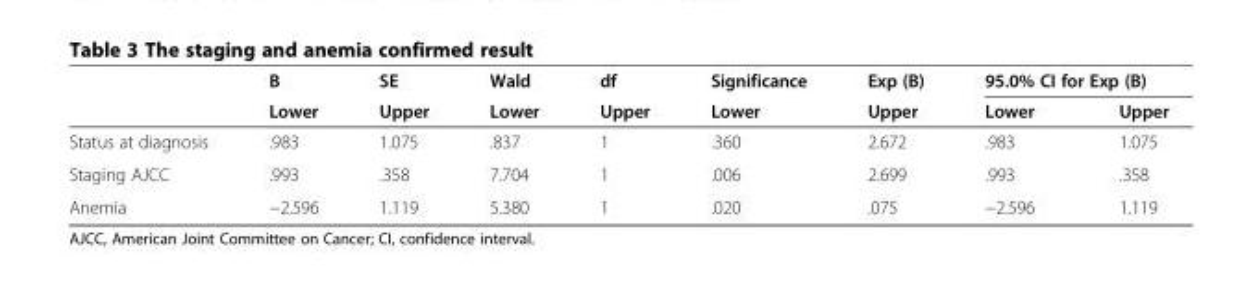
<table><thead><tr><td rowspan="2"></td><td rowspan="2">B Lower</td><td rowspan="2">SE Upper</td><td rowspan="2">Wald Lower</td><td rowspan="2">df Upper</td><td rowspan="2">Significance Lower</td><td rowspan="2">Exp (B) Upper</td><td colspan="2">95.0% CI for Exp (B)</td></tr><tr><td>Lower</td><td>Upper</td></tr></thead><tbody><tr><td>Status at diagnosis</td><td>.983</td><td>1.075</td><td>.837</td><td>1</td><td>.360</td><td>2.672</td><td>.983</td><td>1.075</td></tr><tr><td>Staging AJCC</td><td>.993</td><td>.358</td><td>7.704</td><td>1</td><td>.006</td><td>2.699</td><td>.993</td><td>.358</td></tr><tr><td>Anemia</td><td>−2.596</td><td>1.119</td><td>5.380</td><td>1</td><td>.020</td><td>.075</td><td>−2.596</td><td>1.119</td></tr></tbody></table>